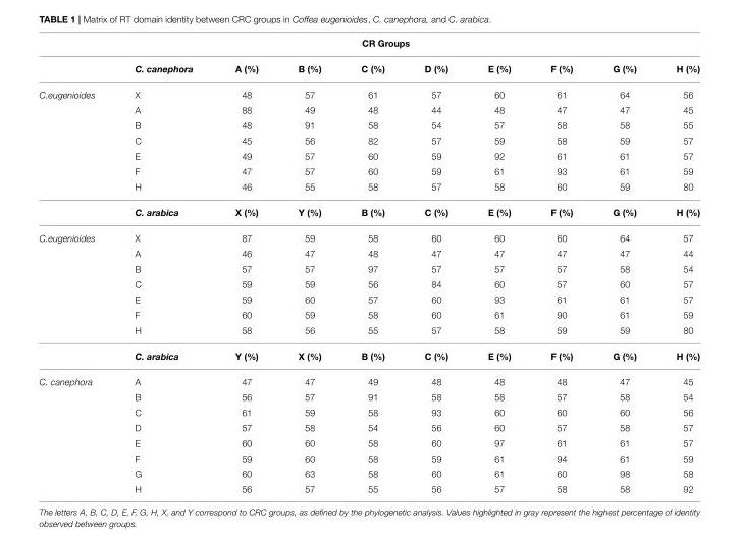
<table><thead><tr><td rowspan="2"></td><td colspan="9">CR Groups</td></tr><tr><td>C. canephora</td><td>A (%)</td><td>B (%)</td><td>C (%)</td><td>D (%)</td><td>E (%)</td><td>F (%)</td><td>G (%)</td><td>H (%)</td></tr></thead><tbody><tr><td rowspan="8">C.eugenioides</td><td>X</td><td>48</td><td>57</td><td>61</td><td>57</td><td>60</td><td>61</td><td>64</td><td>56</td></tr><tr><td>A</td><td>88</td><td>49</td><td>48</td><td>44</td><td>48</td><td>47</td><td>47</td><td>45</td></tr><tr><td>B</td><td>48</td><td>91</td><td>58</td><td>54</td><td>57</td><td>58</td><td>58</td><td>55</td></tr><tr><td>C</td><td>45</td><td>56</td><td>82</td><td>57</td><td>59</td><td>58</td><td>59</td><td>57</td></tr><tr><td>E</td><td>49</td><td>57</td><td>60</td><td>59</td><td>92</td><td>61</td><td>61</td><td>57</td></tr><tr><td>F</td><td>47</td><td>57</td><td>60</td><td>59</td><td>61</td><td>93</td><td>61</td><td>59</td></tr><tr><td>H</td><td>46</td><td>55</td><td>58</td><td>57</td><td>58</td><td>60</td><td>59</td><td>80</td></tr><tr><td>C. arabica</td><td>X (%)</td><td>Y (%)</td><td>B (%)</td><td>C (%)</td><td>E (%)</td><td>F (%)</td><td>G (%)</td><td>H (%)</td></tr><tr><td rowspan="8">C.eugenioides</td><td>X</td><td>87</td><td>59</td><td>58</td><td>60</td><td>60</td><td>60</td><td>64</td><td>57</td></tr><tr><td>A</td><td>46</td><td>47</td><td>48</td><td>47</td><td>47</td><td>47</td><td>47</td><td>44</td></tr><tr><td>B</td><td>57</td><td>57</td><td>97</td><td>57</td><td>57</td><td>57</td><td>58</td><td>54</td></tr><tr><td>C</td><td>59</td><td>59</td><td>56</td><td>84</td><td>60</td><td>57</td><td>60</td><td>57</td></tr><tr><td>E</td><td>59</td><td>60</td><td>57</td><td>60</td><td>93</td><td>61</td><td>61</td><td>57</td></tr><tr><td>F</td><td>60</td><td>59</td><td>58</td><td>60</td><td>61</td><td>90</td><td>61</td><td>59</td></tr><tr><td>H</td><td>58</td><td>56</td><td>55</td><td>57</td><td>58</td><td>59</td><td>59</td><td>80</td></tr><tr><td>C. arabica</td><td>Y (%)</td><td>X (%)</td><td>B (%)</td><td>C (%)</td><td>E (%)</td><td>F (%)</td><td>G (%)</td><td>H (%)</td></tr><tr><td rowspan="8">C. canephora</td><td>A</td><td>47</td><td>47</td><td>49</td><td>48</td><td>48</td><td>48</td><td>47</td><td>45</td></tr><tr><td>B</td><td>56</td><td>57</td><td>91</td><td>58</td><td>58</td><td>57</td><td>58</td><td>54</td></tr><tr><td>C</td><td>61</td><td>59</td><td>58</td><td>93</td><td>60</td><td>60</td><td>60</td><td>56</td></tr><tr><td>D</td><td>57</td><td>58</td><td>54</td><td>56</td><td>60</td><td>57</td><td>58</td><td>57</td></tr><tr><td>E</td><td>60</td><td>60</td><td>58</td><td>60</td><td>97</td><td>61</td><td>61</td><td>57</td></tr><tr><td>F</td><td>59</td><td>60</td><td>58</td><td>59</td><td>61</td><td>94</td><td>61</td><td>59</td></tr><tr><td>G</td><td>60</td><td>63</td><td>58</td><td>60</td><td>61</td><td>60</td><td>98</td><td>58</td></tr><tr><td>H</td><td>56</td><td>57</td><td>55</td><td>56</td><td>57</td><td>58</td><td>58</td><td>92</td></tr></tbody></table>